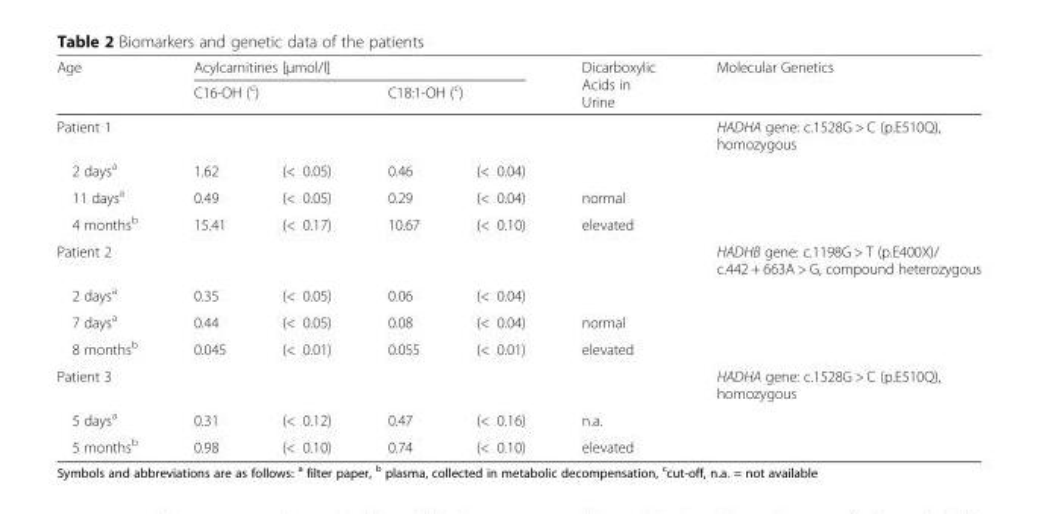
<table><thead><tr><td rowspan="3">Age Patient 1</td><td colspan="4">Acylcarnitines [μmol/l]</td><td rowspan="3">Dicarboxylic Acids in Urine</td><td rowspan="3">Molecular Genetics HADHA gene: c.1528G &gt; C (p.E510Q), homozygous</td></tr><tr><td colspan="2">C16-OH (<sup>c</sup>)</td><td colspan="2">C18:1-OH (<sup>c</sup>)</td></tr><tr><td></td><td></td><td></td><td></td></tr></thead><tbody><tr><td>2 days<sup>a</sup></td><td>1.62</td><td>(&lt; 0.05)</td><td>0.46</td><td>(&lt; 0.04)</td><td></td><td></td></tr><tr><td>11 days<sup>a</sup></td><td>0.49</td><td>(&lt; 0.05)</td><td>0.29</td><td>(&lt; 0.04)</td><td>normal</td><td></td></tr><tr><td>4 months<sup>b</sup></td><td>15.41</td><td>(&lt; 0.17)</td><td>10.67</td><td>(&lt; 0.10)</td><td>elevated</td><td></td></tr><tr><td>Patient 2</td><td></td><td></td><td></td><td></td><td></td><td>HADHB gene: c.1198G &gt; T (p.E400X)/ c.442 + 663A &gt; G, compound heterozygous</td></tr><tr><td>2 days<sup>a</sup></td><td>0.35</td><td>(&lt; 0.05)</td><td>0.06</td><td>(&lt; 0.04)</td><td></td><td></td></tr><tr><td>7 days<sup>a</sup></td><td>0.44</td><td>(&lt; 0.05)</td><td>0.08</td><td>(&lt; 0.04)</td><td>normal</td><td></td></tr><tr><td>8 months<sup>b</sup></td><td>0.045</td><td>(&lt; 0.01)</td><td>0.055</td><td>(&lt; 0.01)</td><td>elevated</td><td></td></tr><tr><td>Patient 3</td><td></td><td></td><td></td><td></td><td></td><td>HADHA gene: c.1528G &gt; C (p.E510Q), homozygous</td></tr><tr><td>5 days<sup>a</sup></td><td>0.31</td><td>(&lt; 0.12)</td><td>0.47</td><td>(&lt; 0.16)</td><td>n.a.</td><td></td></tr><tr><td>5 months<sup>b</sup></td><td>0.98</td><td>(&lt; 0.10)</td><td>0.74</td><td>(&lt; 0.10)</td><td>elevated</td><td></td></tr></tbody></table>